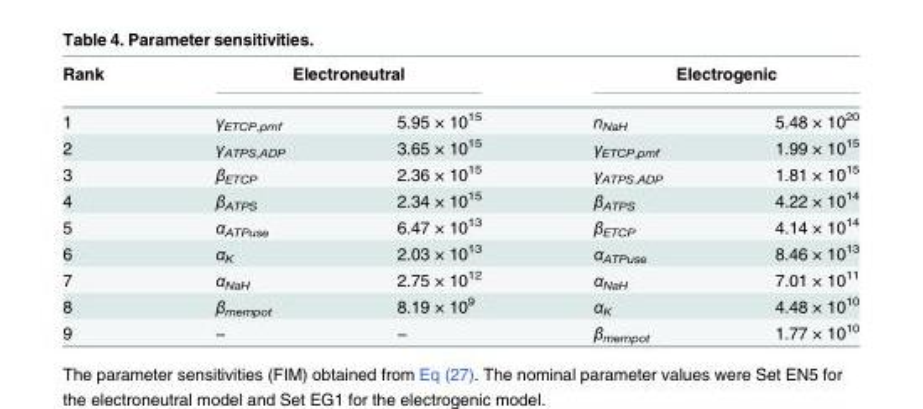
<table><thead><tr><td rowspan="2">Rank 1</td><td colspan="2">Electroneutral</td><td colspan="2">Electrogenic</td></tr><tr><td>γ<sub>ETCP,pmf</sub></td><td>5.95 × 10<sup>15</sup></td><td>n<sub>NaH</sub></td><td>5.48 × 10<sup>20</sup></td></tr></thead><tbody><tr><td>2</td><td>γ<sub>ATPS,ADP</sub></td><td>3.65 × 10<sup>15</sup></td><td>γ<sub>ETCP,pmf</sub></td><td>1.99 × 10<sup>15</sup></td></tr><tr><td>3</td><td>β<sub>ETCP</sub></td><td>2.36 × 10<sup>15</sup></td><td>γ<sub>ATPS,ADP</sub></td><td>1.81 × 10<sup>15</sup></td></tr><tr><td>4</td><td>β<sub>ATPS</sub></td><td>2.34 × 10<sup>15</sup></td><td>β<sub>ATPS</sub></td><td>4.22 × 10<sup>14</sup></td></tr><tr><td>5</td><td>α<sub>ATPuse</sub></td><td>6.47 × 10<sup>13</sup></td><td>β<sub>ETCP</sub></td><td>4.14 × 10<sup>14</sup></td></tr><tr><td>6</td><td>α<sub>K</sub></td><td>2.03 × 10<sup>13</sup></td><td>α<sub>ATPuse</sub></td><td>8.46 × 10<sup>13</sup></td></tr><tr><td>7</td><td>α<sub>NaH</sub></td><td>2.75 × 10<sup>12</sup></td><td>α<sub>NaH</sub></td><td>7.01 × 10<sup>11</sup></td></tr><tr><td>8</td><td>β<sub>mempot</sub></td><td>8.19 × 10<sup>9</sup></td><td>α<sub>K</sub></td><td>4.48 × 10<sup>10</sup></td></tr><tr><td>9</td><td>−</td><td>−</td><td>β<sub>mempot</sub></td><td>1.77 × 10<sup>10</sup></td></tr></tbody></table>